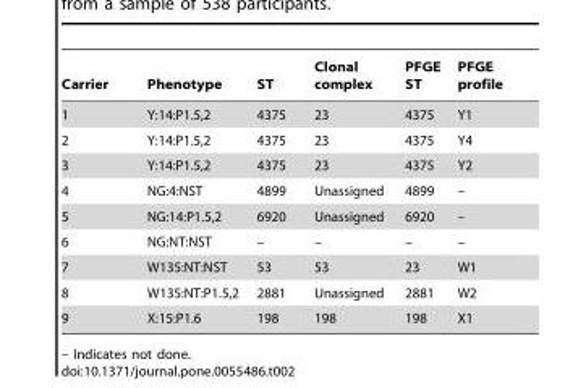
<table><thead><tr><td>Carrier</td><td>Phenotype</td><td>ST</td><td>Clonal complex</td><td>PFGE ST</td><td>PFGE profile</td></tr></thead><tbody><tr><td>1</td><td>Y:14:P1.5,2</td><td>4375</td><td>23</td><td>4375</td><td>Y1</td></tr><tr><td>2</td><td>Y:14:P1.5,2</td><td>4375</td><td>23</td><td>4375</td><td>Y4</td></tr><tr><td>3</td><td>Y:14:P1.5,2</td><td>4375</td><td>23</td><td>4375</td><td>Y2</td></tr><tr><td>4</td><td>NG:4:NST</td><td>4899</td><td>Unassigned</td><td>4899</td><td>–</td></tr><tr><td>5</td><td>NG:14:P1.5,2</td><td>6920</td><td>Unassigned</td><td>6920</td><td>–</td></tr><tr><td>6</td><td>NG:NT:NST</td><td>–</td><td>–</td><td>–</td><td>–</td></tr><tr><td>7</td><td>W135:NT:NST</td><td>53</td><td>53</td><td>23</td><td>W1</td></tr><tr><td>8</td><td>W135:NT:P1.5,2</td><td>2881</td><td>Unassigned</td><td>2881</td><td>W2</td></tr><tr><td>9</td><td>X:15:P1.6</td><td>198</td><td>198</td><td>198</td><td>X1</td></tr></tbody></table>